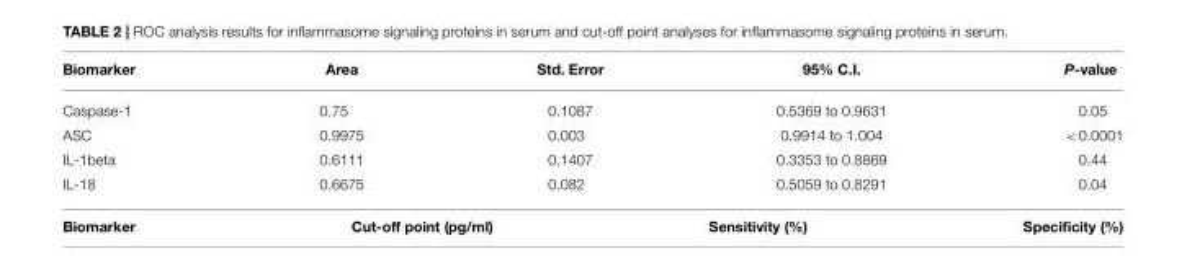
<table><thead><tr><td>Biomarker</td><td>Area</td><td>Std. Error</td><td>95% C.I.</td><td>P-value</td></tr></thead><tbody><tr><td>Caspase-1</td><td>0.75</td><td>0.1087</td><td>0.5369 to 0.9631</td><td>0.05</td></tr><tr><td>ASC</td><td>0.9975</td><td>0.003</td><td>0.9914 to 1.004</td><td>&lt;0.0001</td></tr><tr><td>IL-1beta</td><td>0.6111</td><td>0.1407</td><td>0.3353 to 0.8869</td><td>0.44</td></tr><tr><td>IL-18</td><td>0.6675</td><td>0.082</td><td>0.5059 to 0.8291</td><td>0.04</td></tr></tbody></table>